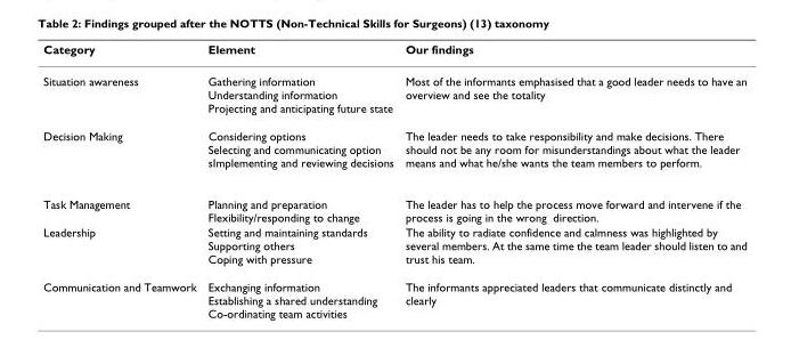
<table><thead><tr><td>Category</td><td>Element</td><td>Our findings</td></tr></thead><tbody><tr><td>Situation awareness</td><td>Gathering information Understanding information Projecting and anticipating future state</td><td>Most of the informants emphasised that a good leader needs to have an overview and see the totality</td></tr><tr><td>Decision Making</td><td>Considering options Selecting and communicating option sImplementing and reviewing decisions</td><td>The leader needs to take responsibility and make decisions. There should not be any room for misunderstandings about what the leader means and what he/she wants the team members to perform.</td></tr><tr><td>Task Management</td><td>Planning and preparation Flexibility/responding to change</td><td>The leader has to help the process move forward and intervene if the process is going in the wrong direction.</td></tr><tr><td>Leadership</td><td>Setting and maintaining standards Supporting others Coping with pressure</td><td>The ability to radiate confidence and calmness was highlighted by several members. At the same time the team leader should listen to and trust his team.</td></tr><tr><td>Communication and Teamwork</td><td>Exchanging information Establishing a shared understanding Co-ordinating team activities</td><td>The informants appreciated leaders that communicate distinctly and clearly</td></tr></tbody></table>